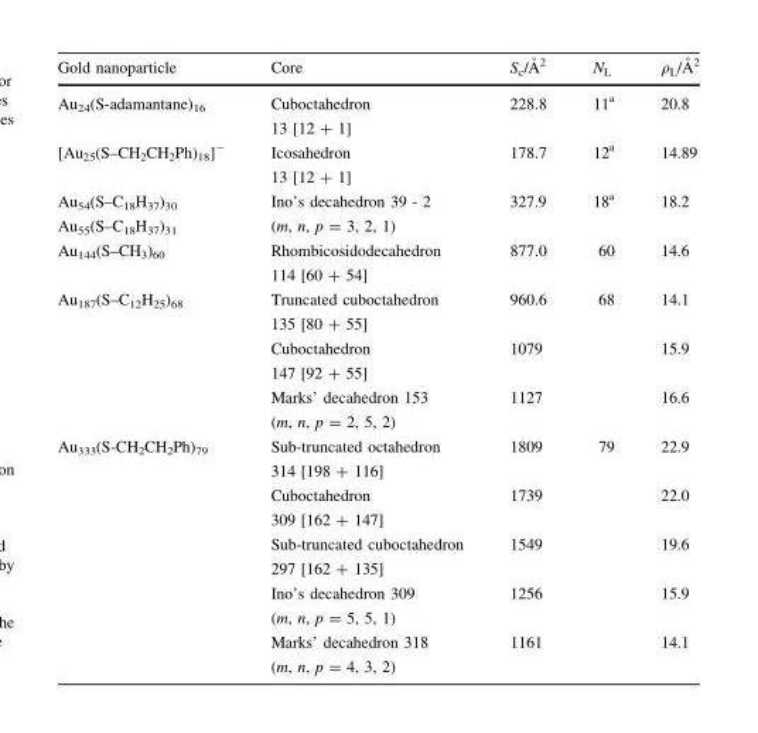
<table><thead><tr><td>Gold nanoparticle</td><td>Core</td><td>Sc/A˚ 2</td><td>N<sub>L</sub></td><td>qL/A˚ 2</td></tr></thead><tbody><tr><td>Au<sub>24</sub>(S-adamantane)<sub>16</sub></td><td>Cuboctahedron 13 [12 + 1]</td><td>228.8</td><td>11<sup>a</sup></td><td>20.8</td></tr><tr><td>[Au<sub>25</sub>(S–CH<sub>2</sub>CH<sub>2</sub>Ph)<sub>18</sub>]<sup>-</sup></td><td>Icosahedron 13 [12 + 1]</td><td>178.7</td><td>12<sup>a</sup></td><td>14.89</td></tr><tr><td>Au<sub>54</sub>(S–C<sub>18</sub>H<sub>37</sub>)<sub>30</sub> Au<sub>55</sub>(S–C<sub>18</sub>H<sub>37</sub>)<sub>31</sub></td><td>Ino’s decahedron 39 - 2 (m, n, p = 3, 2, 1)</td><td>327.9</td><td>18<sup>a</sup></td><td>18.2</td></tr><tr><td>Au<sub>144</sub>(S–CH<sub>3</sub>)<sub>60</sub></td><td>Rhombicosidodecahedron 114 [60 + 54]</td><td>877.0</td><td>60</td><td>14.6</td></tr><tr><td rowspan="3">Au<sub>187</sub>(S–C<sub>12</sub>H<sub>25</sub>)<sub>68</sub></td><td>Truncated cuboctahedron 135 [80 + 55]</td><td>960.6</td><td>68</td><td>14.1</td></tr><tr><td>Cuboctahedron 147 [92 + 55]</td><td>1079</td><td></td><td>15.9</td></tr><tr><td>Marks’ decahedron 153 (m, n, p = 2, 5, 2)</td><td>1127</td><td></td><td>16.6</td></tr><tr><td rowspan="5">Au<sub>333</sub>(S-CH<sub>2</sub>CH<sub>2</sub>Ph)<sub>79</sub></td><td>Sub-truncated octahedron 314 [198 + 116]</td><td>1809</td><td>79</td><td>22.9</td></tr><tr><td>Cuboctahedron 309 [162 + 147]</td><td>1739</td><td></td><td>22.0</td></tr><tr><td>Sub-truncated cuboctahedron 297 [162 + 135]</td><td>1549</td><td></td><td>19.6</td></tr><tr><td>Ino’s decahedron 309 (m, n, p = 5, 5, 1)</td><td>1256</td><td></td><td>15.9</td></tr><tr><td>Marks’ decahedron 318 (m, n, p = 4, 3, 2)</td><td>1161</td><td></td><td>14.1</td></tr></tbody></table>